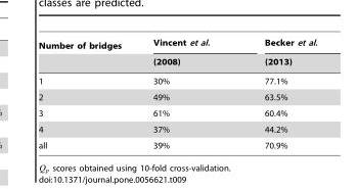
<table><thead><tr><td rowspan="2">Number of bridges</td><td rowspan="2">Vincent et al. (2008)</td><td rowspan="2">Becker et al. (2013)</td></tr><tr></tr></thead><tbody><tr><td>1</td><td>30%</td><td>77.1%</td></tr><tr><td>2</td><td>49%</td><td>63.5%</td></tr><tr><td>3</td><td>61%</td><td>60.4%</td></tr><tr><td>4</td><td>37%</td><td>44.2%</td></tr><tr><td>all</td><td>39%</td><td>70.9%</td></tr></tbody></table>